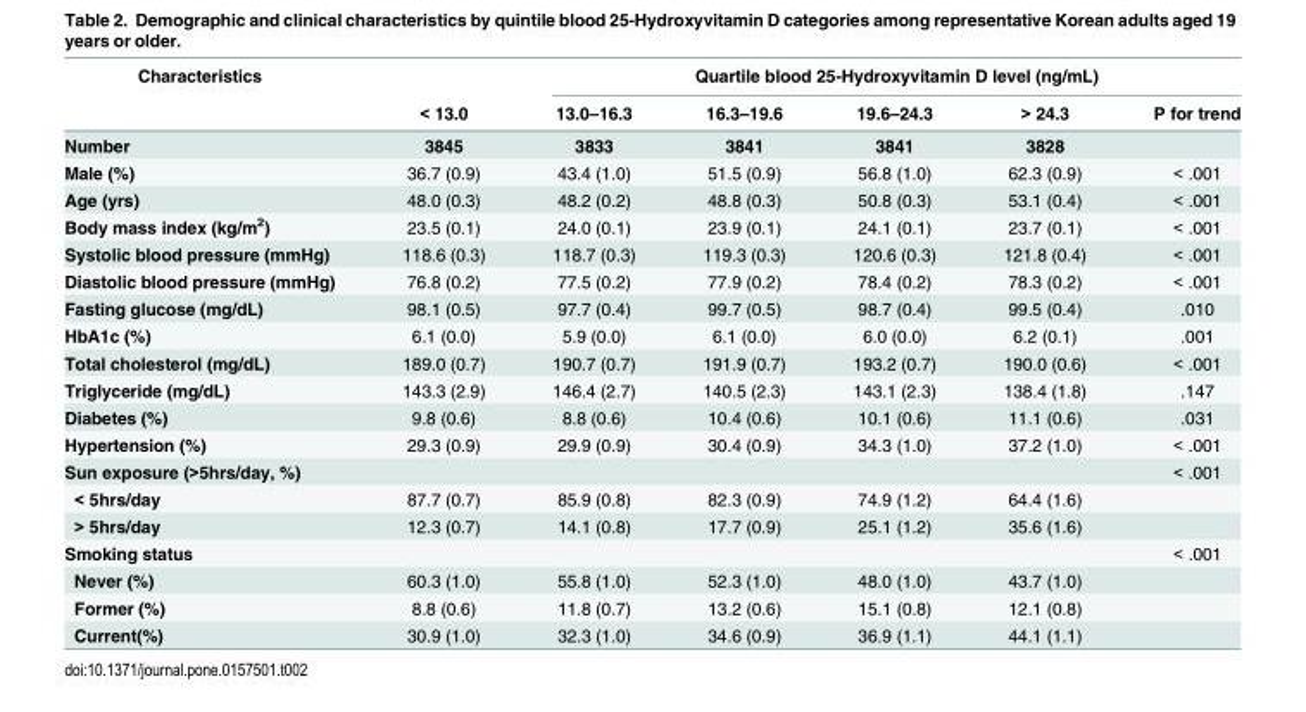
<table><thead><tr><td rowspan="2">Characteristics</td><td rowspan="2">&lt; 13.0</td><td colspan="5">Quartile blood 25-Hydroxyvitamin D level (ng/mL)</td></tr><tr><td>13.0–16.3</td><td>16.3–19.6</td><td>19.6–24.3</td><td>&gt; 24.3</td><td>P for trend</td></tr></thead><tbody><tr><td>Number</td><td>3845</td><td>3833</td><td>3841</td><td>3841</td><td>3828</td><td></td></tr><tr><td>Male (%)</td><td>36.7 (0.9)</td><td>43.4 (1.0)</td><td>51.5 (0.9)</td><td>56.8 (1.0)</td><td>62.3 (0.9)</td><td>&lt; .001</td></tr><tr><td>Age (yrs)</td><td>48.0 (0.3)</td><td>48.2 (0.2)</td><td>48.8 (0.3)</td><td>50.8 (0.3)</td><td>53.1 (0.4)</td><td>&lt; .001</td></tr><tr><td>Body mass index (kg/m<sup>2</sup>)</td><td>23.5 (0.1)</td><td>24.0 (0.1)</td><td>23.9 (0.1)</td><td>24.1 (0.1)</td><td>23.7 (0.1)</td><td>&lt; .001</td></tr><tr><td>Systolic blood pressure (mmHg)</td><td>118.6 (0.3)</td><td>118.7 (0.3)</td><td>119.3 (0.3)</td><td>120.6 (0.3)</td><td>121.8 (0.4)</td><td>&lt; .001</td></tr><tr><td>Diastolic blood pressure (mmHg)</td><td>76.8 (0.2)</td><td>77.5 (0.2)</td><td>77.9 (0.2)</td><td>78.4 (0.2)</td><td>78.3 (0.2)</td><td>&lt; .001</td></tr><tr><td>Fasting glucose (mg/dL)</td><td>98.1 (0.5)</td><td>97.7 (0.4)</td><td>99.7 (0.5)</td><td>98.7 (0.4)</td><td>99.5 (0.4)</td><td>.010</td></tr><tr><td>HbA1c (%)</td><td>6.1 (0.0)</td><td>5.9 (0.0)</td><td>6.1 (0.0)</td><td>6.0 (0.0)</td><td>6.2 (0.1)</td><td>.001</td></tr><tr><td>Total cholesterol (mg/dL)</td><td>189.0 (0.7)</td><td>190.7 (0.7)</td><td>191.9 (0.7)</td><td>193.2 (0.7)</td><td>190.0 (0.6)</td><td>&lt; .001</td></tr><tr><td>Triglyceride (mg/dL)</td><td>143.3 (2.9)</td><td>146.4 (2.7)</td><td>140.5 (2.3)</td><td>143.1 (2.3)</td><td>138.4 (1.8)</td><td>.147</td></tr><tr><td>Diabetes (%)</td><td>9.8 (0.6)</td><td>8.8 (0.6)</td><td>10.4 (0.6)</td><td>10.1 (0.6)</td><td>11.1 (0.6)</td><td>.031</td></tr><tr><td>Hypertension (%)</td><td>29.3 (0.9)</td><td>29.9 (0.9)</td><td>30.4 (0.9)</td><td>34.3 (1.0)</td><td>37.2 (1.0)</td><td>&lt; .001</td></tr><tr><td>Sun exposure (&gt;5hrs/day, %)</td><td></td><td></td><td></td><td></td><td></td><td>&lt; .001</td></tr><tr><td>&lt; 5hrs/day</td><td>87.7 (0.7)</td><td>85.9 (0.8)</td><td>82.3 (0.9)</td><td>74.9 (1.2)</td><td>64.4 (1.6)</td><td></td></tr><tr><td>&gt; 5hrs/day</td><td>12.3 (0.7)</td><td>14.1 (0.8)</td><td>17.7 (0.9)</td><td>25.1 (1.2)</td><td>35.6 (1.6)</td><td></td></tr><tr><td>Smoking status</td><td></td><td></td><td></td><td></td><td></td><td>&lt; .001</td></tr><tr><td>Never (%)</td><td>60.3 (1.0)</td><td>55.8 (1.0)</td><td>52.3 (1.0)</td><td>48.0 (1.0)</td><td>43.7 (1.0)</td><td></td></tr><tr><td>Former (%)</td><td>8.8 (0.6)</td><td>11.8 (0.7)</td><td>13.2 (0.6)</td><td>15.1 (0.8)</td><td>12.1 (0.8)</td><td></td></tr><tr><td>Current(%)</td><td>30.9 (1.0)</td><td>32.3 (1.0)</td><td>34.6 (0.9)</td><td>36.9 (1.1)</td><td>44.1 (1.1)</td><td></td></tr></tbody></table>